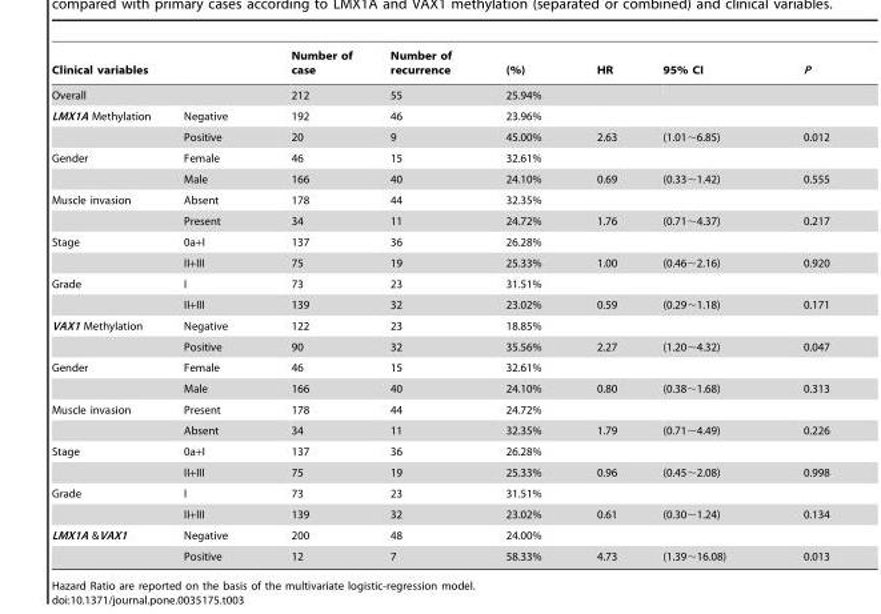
<table><thead><tr><td>Clinical variables</td><td></td><td>Number of case</td><td>Number of recurrence</td><td>(%)</td><td>HR</td><td>95% CI</td><td>P</td></tr></thead><tbody><tr><td>Overall</td><td></td><td>212</td><td>55</td><td>25.94%</td><td></td><td></td><td></td></tr><tr><td rowspan="2">LMX1A Methylation</td><td>Negative</td><td>192</td><td>46</td><td>23.96%</td><td></td><td></td><td></td></tr><tr><td>Positive</td><td>20</td><td>9</td><td>45.00%</td><td>2.63</td><td>(1.01∼6.85)</td><td>0.012</td></tr><tr><td rowspan="2">Gender</td><td>Female</td><td>46</td><td>15</td><td>32.61%</td><td></td><td></td><td></td></tr><tr><td>Male</td><td>166</td><td>40</td><td>24.10%</td><td>0.69</td><td>(0.33∼1.42)</td><td>0.555</td></tr><tr><td rowspan="2">Muscle invasion</td><td>Absent</td><td>178</td><td>44</td><td>32.35%</td><td></td><td></td><td></td></tr><tr><td>Present</td><td>34</td><td>11</td><td>24.72%</td><td>1.76</td><td>(0.71∼4.37)</td><td>0.217</td></tr><tr><td rowspan="2">Stage</td><td>0a+I</td><td>137</td><td>36</td><td>26.28%</td><td></td><td></td><td></td></tr><tr><td>II+III</td><td>75</td><td>19</td><td>25.33%</td><td>1.00</td><td>(0.46∼2.16)</td><td>0.920</td></tr><tr><td rowspan="2">Grade</td><td>I</td><td>73</td><td>23</td><td>31.51%</td><td></td><td></td><td></td></tr><tr><td>II+III</td><td>139</td><td>32</td><td>23.02%</td><td>0.59</td><td>(0.29∼1.18)</td><td>0.171</td></tr><tr><td rowspan="2">VAX1 Methylation</td><td>Negative</td><td>122</td><td>23</td><td>18.85%</td><td></td><td></td><td></td></tr><tr><td>Positive</td><td>90</td><td>32</td><td>35.56%</td><td>2.27</td><td>(1.20∼4.32)</td><td>0.047</td></tr><tr><td rowspan="2">Gender</td><td>Female</td><td>46</td><td>15</td><td>32.61%</td><td></td><td></td><td></td></tr><tr><td>Male</td><td>166</td><td>40</td><td>24.10%</td><td>0.80</td><td>(0.38∼1.68)</td><td>0.313</td></tr><tr><td rowspan="2">Muscle invasion</td><td>Present</td><td>178</td><td>44</td><td>24.72%</td><td></td><td></td><td></td></tr><tr><td>Absent</td><td>34</td><td>11</td><td>32.35%</td><td>1.79</td><td>(0.71∼4.49)</td><td>0.226</td></tr><tr><td rowspan="2">Stage</td><td>0a+I</td><td>137</td><td>36</td><td>26.28%</td><td></td><td></td><td></td></tr><tr><td>II+III</td><td>75</td><td>19</td><td>25.33%</td><td>0.96</td><td>(0.45∼2.08)</td><td>0.998</td></tr><tr><td rowspan="2">Grade</td><td>I</td><td>73</td><td>23</td><td>31.51%</td><td></td><td></td><td></td></tr><tr><td>II+III</td><td>139</td><td>32</td><td>23.02%</td><td>0.61</td><td>(0.30∼1.24)</td><td>0.134</td></tr><tr><td rowspan="2">LMX1A &amp;VAX1</td><td>Negative</td><td>200</td><td>48</td><td>24.00%</td><td></td><td></td><td></td></tr><tr><td>Positive</td><td>12</td><td>7</td><td>58.33%</td><td>4.73</td><td>(1.39∼16.08)</td><td>0.013</td></tr></tbody></table>